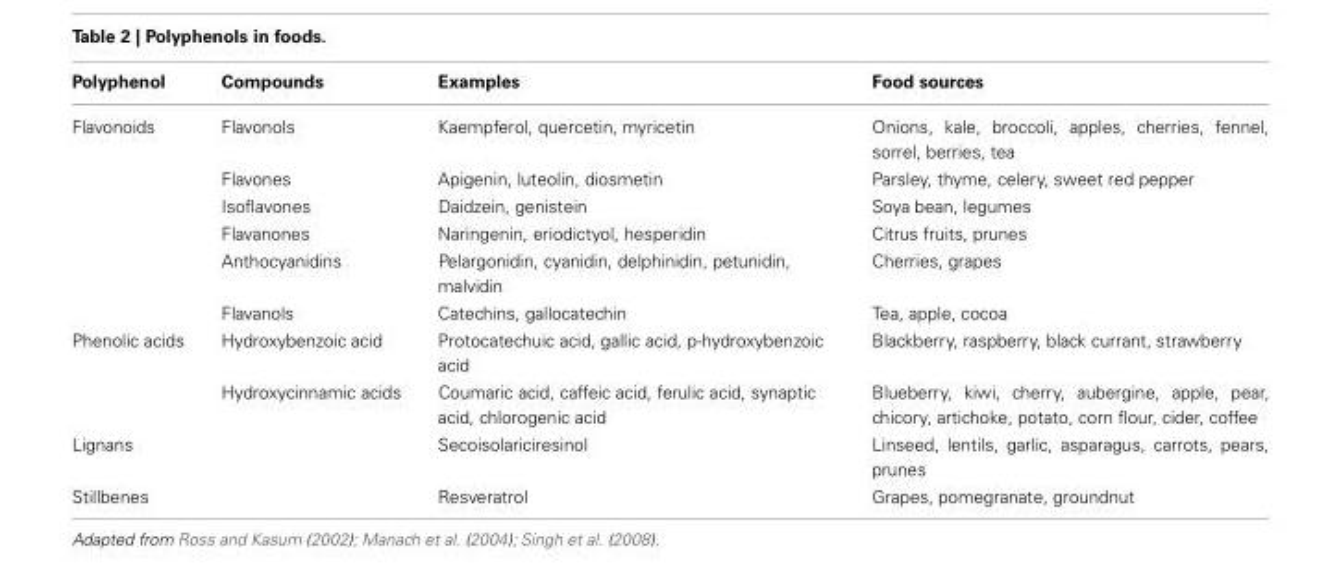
<table><thead><tr><td>Polyphenol</td><td>Compounds</td><td>Examples</td><td>Food sources</td></tr></thead><tbody><tr><td rowspan="6">Flavonoids</td><td>Flavonols</td><td>Kaempferol, quercetin, myricetin</td><td>Onions, kale, broccoli, apples, cherries, fennel, sorrel, berries, tea</td></tr><tr><td>Flavones</td><td>Apigenin, luteolin, diosmetin</td><td>Parsley, thyme, celery, sweet red pepper</td></tr><tr><td>Isoflavones</td><td>Daidzein, genistein</td><td>Soya bean, legumes</td></tr><tr><td>Flavanones</td><td>Naringenin, eriodictyol, hesperidin</td><td>Citrus fruits, prunes</td></tr><tr><td>Anthocyanidins</td><td>Pelargonidin, cyanidin, delphinidin, petunidin, malvidin</td><td>Cherries, grapes</td></tr><tr><td>Flavanols</td><td>Catechins, gallocatechin</td><td>Tea, apple, cocoa</td></tr><tr><td rowspan="2">Phenolic acids</td><td>Hydroxybenzoic acid</td><td>Protocatechuic acid, gallic acid, p-hydroxybenzoic acid</td><td>Blackberry, raspberry, black currant, strawberry</td></tr><tr><td>Hydroxycinnamic acids</td><td>Coumaric acid, caffeic acid, ferulic acid, synaptic acid, chlorogenic acid</td><td>Blueberry, kiwi, cherry, aubergine, apple, pear, chicory, artichoke, potato, corn flour, cider, coffee</td></tr><tr><td>Lignans</td><td></td><td>Secoisolariciresinol</td><td>Linseed, lentils, garlic, asparagus, carrots, pears, prunes</td></tr><tr><td>Stillbenes</td><td></td><td>Resveratrol</td><td>Grapes, pomegranate, groundnut</td></tr></tbody></table>